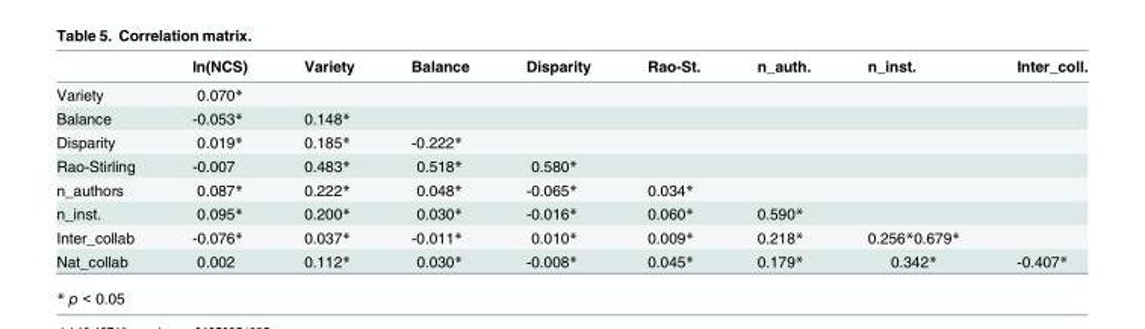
<table><thead><tr><td></td><td>ln(NCS)</td><td>Variety</td><td>Balance</td><td>Disparity</td><td>Rao-St.</td><td>n_auth.</td><td>n_inst.</td><td>Inter_coll.</td></tr></thead><tbody><tr><td>Variety</td><td>0.070*</td><td></td><td></td><td></td><td></td><td></td><td></td><td></td></tr><tr><td>Balance</td><td>-0.053*</td><td>0.148*</td><td></td><td></td><td></td><td></td><td></td><td></td></tr><tr><td>Disparity</td><td>0.019*</td><td>0.185*</td><td>-0.222*</td><td></td><td></td><td></td><td></td><td></td></tr><tr><td>Rao-Stirling</td><td>-0.007</td><td>0.483*</td><td>0.518*</td><td>0.580*</td><td></td><td></td><td></td><td></td></tr><tr><td>n_authors</td><td>0.087*</td><td>0.222*</td><td>0.048*</td><td>-0.065*</td><td>0.034*</td><td></td><td></td><td></td></tr><tr><td>n_inst.</td><td>0.095*</td><td>0.200*</td><td>0.030*</td><td>-0.016*</td><td>0.060*</td><td>0.590*</td><td></td><td></td></tr><tr><td>Inter_collab</td><td>-0.076*</td><td>0.037*</td><td>-0.011*</td><td>0.010*</td><td>0.009*</td><td>0.218*</td><td>0.256*0.679*</td><td></td></tr><tr><td>Nat_collab</td><td>0.002</td><td>0.112*</td><td>0.030*</td><td>-0.008*</td><td>0.045*</td><td>0.179*</td><td>0.342*</td><td>-0.407*</td></tr></tbody></table>